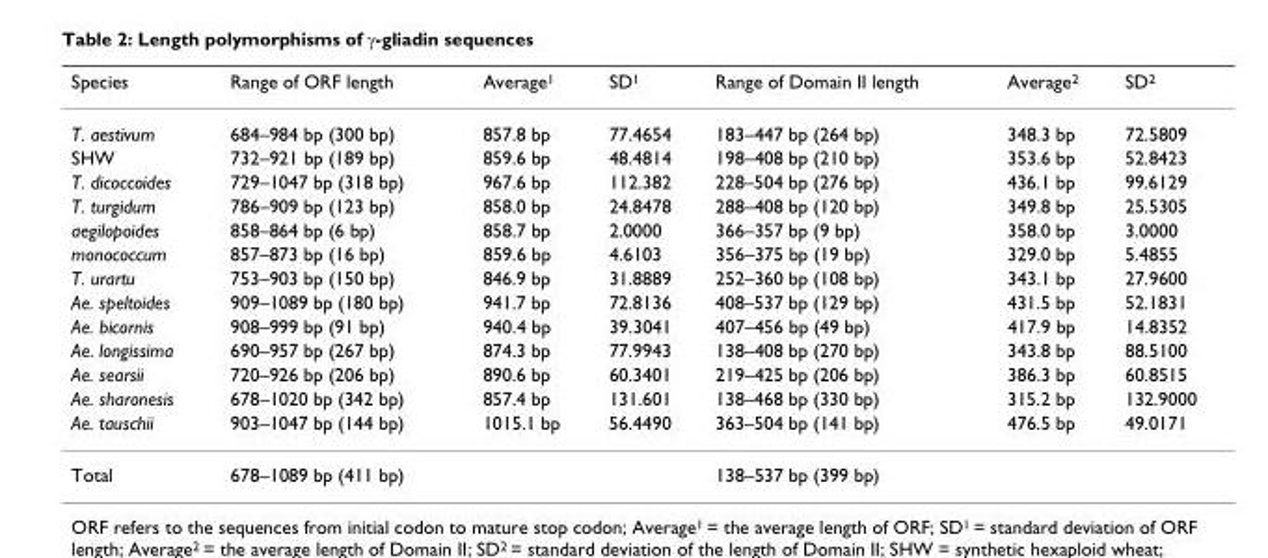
<table><thead><tr><td>Species</td><td>Range of ORF length</td><td>Average<sup>1</sup></td><td>SD<sup>1</sup></td><td>Range of Domain II length</td><td>Average<sup>2</sup></td><td>SD<sup>2</sup></td></tr></thead><tbody><tr><td>T. aestivum</td><td>684–984 bp (300 bp)</td><td>857.8 bp</td><td>77.4654</td><td>183–447 bp (264 bp)</td><td>348.3 bp</td><td>72.5809</td></tr><tr><td>SHW</td><td>732–921 bp (189 bp)</td><td>859.6 bp</td><td>48.4814</td><td>198–408 bp (210 bp)</td><td>353.6 bp</td><td>52.8423</td></tr><tr><td>T. dicoccoides</td><td>729–1047 bp (318 bp)</td><td>967.6 bp</td><td>112.382</td><td>228–504 bp (276 bp)</td><td>436.1 bp</td><td>99.6129</td></tr><tr><td>T. turgidum</td><td>786–909 bp (123 bp)</td><td>858.0 bp</td><td>24.8478</td><td>288–408 bp (120 bp)</td><td>349.8 bp</td><td>25.5305</td></tr><tr><td>aegilopoides</td><td>858–864 bp (6 bp)</td><td>858.7 bp</td><td>2.0000</td><td>366–357 bp (9 bp)</td><td>358.0 bp</td><td>3.0000</td></tr><tr><td>monococcum</td><td>857–873 bp (16 bp)</td><td>859.6 bp</td><td>4.6103</td><td>356–375 bp (19 bp)</td><td>329.0 bp</td><td>5.4855</td></tr><tr><td>T. urartu</td><td>753–903 bp (150 bp)</td><td>846.9 bp</td><td>31.8889</td><td>252–360 bp (108 bp)</td><td>343.1 bp</td><td>27.9600</td></tr><tr><td>Ae. speltoides</td><td>909–1089 bp (180 bp)</td><td>941.7 bp</td><td>72.8136</td><td>408–537 bp (129 bp)</td><td>431.5 bp</td><td>52.1831</td></tr><tr><td>Ae. bicornis</td><td>908–999 bp (91 bp)</td><td>940.4 bp</td><td>39.3041</td><td>407–456 bp (49 bp)</td><td>417.9 bp</td><td>14.8352</td></tr><tr><td>Ae. longissima</td><td>690–957 bp (267 bp)</td><td>874.3 bp</td><td>77.9943</td><td>138–408 bp (270 bp)</td><td>343.8 bp</td><td>88.5100</td></tr><tr><td>Ae. searsii</td><td>720–926 bp (206 bp)</td><td>890.6 bp</td><td>60.3401</td><td>219–425 bp (206 bp)</td><td>386.3 bp</td><td>60.8515</td></tr><tr><td>Ae. sharonesis</td><td>678–1020 bp (342 bp)</td><td>857.4 bp</td><td>131.601</td><td>138–468 bp (330 bp)</td><td>315.2 bp</td><td>132.9000</td></tr><tr><td>Ae. tauschii</td><td>903–1047 bp (144 bp)</td><td>1015.1 bp</td><td>56.4490</td><td>363–504 bp (141 bp)</td><td>476.5 bp</td><td>49.0171</td></tr><tr><td>Total</td><td>678–1089 bp (411 bp)</td><td></td><td></td><td>138–537 bp (399 bp)</td><td></td><td></td></tr></tbody></table>